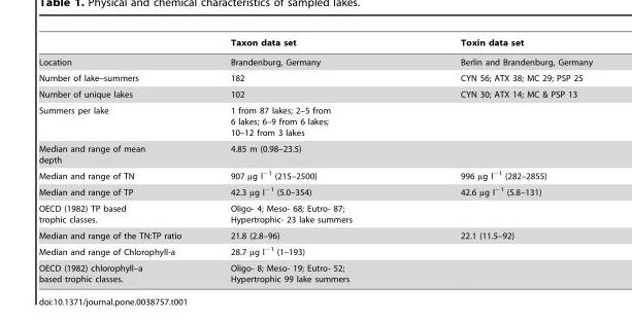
<table><thead><tr><td></td><td>Taxon data set</td><td>Toxin data set</td></tr></thead><tbody><tr><td>Location</td><td>Brandenburg, Germany</td><td>Berlin and Brandenburg, Germany</td></tr><tr><td>Number of lake–summers</td><td>182</td><td>CYN 56; ATX 38; MC 29; PSP 25</td></tr><tr><td>Number of unique lakes</td><td>102</td><td>CYN 30; ATX 14; MC &amp; PSP 13</td></tr><tr><td>Summers per lake</td><td>1 from 87 lakes; 2–5 from 6 lakes; 6–9 from 6 lakes; 10–12 from 3 lakes</td><td></td></tr><tr><td>Median and range of mean depth</td><td>4.85 m (0.98–23.5)</td><td></td></tr><tr><td>Median and range of TN</td><td>907 µg l<sup>−1</sup> (215–2500)</td><td>996 µg l<sup>−1</sup> (282–2855)</td></tr><tr><td>Median and range of TP</td><td>42.3 µg l<sup>−1</sup> (5.0–354)</td><td>42.6 µg l<sup>−1</sup> (5.8–131)</td></tr><tr><td>OECD (1982) TP based trophic classes.</td><td>Oligo- 4; Meso- 68; Eutro- 87; Hypertrophic- 23 lake summers</td><td></td></tr><tr><td>Median and range of the TN:TP ratio</td><td>21.8 (2.8–96)</td><td>22.1 (11.5–92)</td></tr><tr><td>Median and range of Chlorophyll-a</td><td>28.7 µg l<sup>−1</sup> (1–193)</td><td></td></tr><tr><td>OECD (1982) chlorophyll–a based trophic classes.</td><td>Oligo- 8; Meso- 19; Eutro- 52; Hypertrophic 99 lake summers</td><td></td></tr></tbody></table>